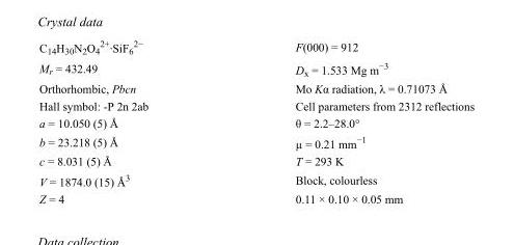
<table><tbody><tr><td>C<sub>14</sub>H<sub>30</sub>N<sub>2</sub>O<sub>4</sub> <sup>2+</sup>·SiF<sub>6</sub> <sup>2−</sup></td><td>F(000) = 912</td></tr><tr><td>M<sub>r</sub> = 432.49</td><td>D<sub>x</sub> = 1.533 Mg m<sup>−3</sup></td></tr><tr><td>Orthorhombic, Pbcn</td><td>Mo Kα radiation, λ = 0.71073 Å</td></tr><tr><td>Hall symbol: -P 2n 2ab</td><td>Cell parameters from 2312 reflections</td></tr><tr><td>a = 10.050 (5) Å</td><td>θ = 2.2–28.0°</td></tr><tr><td>b = 23.218 (5) Å</td><td>µ = 0.21 mm<sup>−1</sup></td></tr><tr><td>c = 8.031 (5) Å</td><td>T = 293 K</td></tr><tr><td>V = 1874.0 (15) Å<sup>3</sup></td><td>Block, colourless</td></tr><tr><td>Z = 4</td><td>0.11 × 0.10 × 0.05 mm</td></tr></tbody></table>